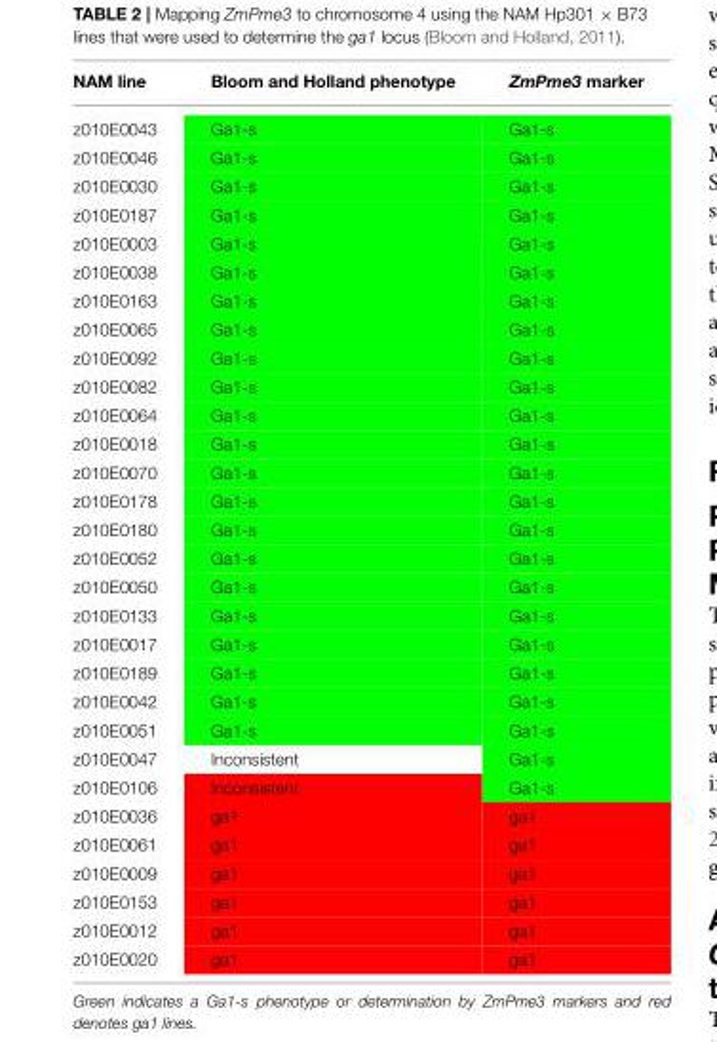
<table><thead><tr><td>NAM line</td><td>Bloom and Holland phenotype</td><td>ZmPme3 marker</td></tr></thead><tbody><tr><td>z010E0043</td><td>Ga1-s</td><td>Ga1-s</td></tr><tr><td>z010E0046</td><td>Ga1-s</td><td>Ga1-s</td></tr><tr><td>z010E0030</td><td>Ga1-s</td><td>Ga1-s</td></tr><tr><td>z010E0187</td><td>Ga1-s</td><td>Ga1-s</td></tr><tr><td>z010E0003</td><td>Ga1-s</td><td>Ga1-s</td></tr><tr><td>z010E0038</td><td>Ga1-s</td><td>Ga1-s</td></tr><tr><td>z010E0163</td><td>Ga1-s</td><td>Ga1-s</td></tr><tr><td>z010E0065</td><td>Ga1-s</td><td>Ga1-s</td></tr><tr><td>z010E0092</td><td>Ga1-s</td><td>Ga1-s</td></tr><tr><td>z010E0082</td><td>Ga1-s</td><td>Ga1-s</td></tr><tr><td>z010E0064</td><td>Ga1-s</td><td>Ga1-s</td></tr><tr><td>z010E0018</td><td>Ga1-s</td><td>Ga1-s</td></tr><tr><td>z010E0070</td><td>Ga1-s</td><td>Ga1-s</td></tr><tr><td>z010E0178</td><td>Ga1-s</td><td>Ga1-s</td></tr><tr><td>z010E0180</td><td>Ga1-s</td><td>Ga1-s</td></tr><tr><td>z010E0052</td><td>Ga1-s</td><td>Ga1-s</td></tr><tr><td>z010E0050</td><td>Ga1-s</td><td>Ga1-s</td></tr><tr><td>z010E0133</td><td>Ga1-s</td><td>Ga1-s</td></tr><tr><td>z010E0017</td><td>Ga1-s</td><td>Ga1-s</td></tr><tr><td>z010E0189</td><td>Ga1-s</td><td>Ga1-s</td></tr><tr><td>z010E0042</td><td>Ga1-s</td><td>Ga1-s</td></tr><tr><td>z010E0051</td><td>Ga1-s</td><td>Ga1-s</td></tr><tr><td>z010E0047</td><td>Inconsistent</td><td>Ga1-s</td></tr><tr><td>z010E0106</td><td>Inconsistent</td><td>Ga1-s</td></tr><tr><td>z010E0036</td><td>ga1</td><td>ga1</td></tr><tr><td>z010E0061</td><td>ga1</td><td>ga1</td></tr><tr><td>z010E0009</td><td>ga1</td><td>ga1</td></tr><tr><td>z010E0153</td><td>ga1</td><td>ga1</td></tr><tr><td>z010E0012</td><td>ga1</td><td>ga1</td></tr><tr><td>z010E0020</td><td>ga1</td><td>ga1</td></tr></tbody></table>